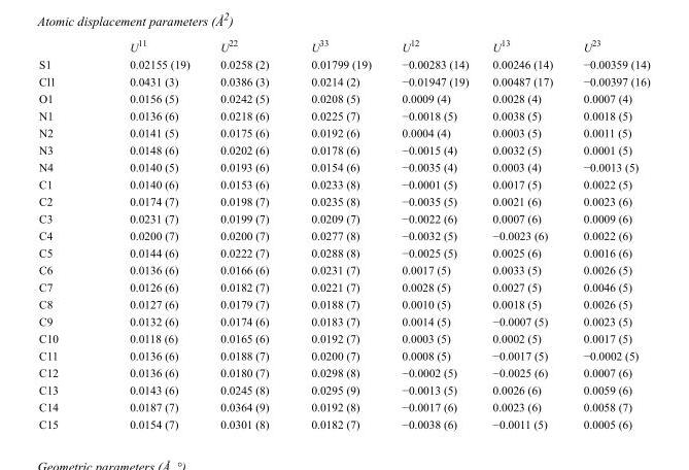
<table><thead><tr><td></td><td>U<sup>11</sup></td><td>U<sup>22</sup></td><td>U<sup>33</sup></td><td>U<sup>12</sup></td><td>U<sup>13</sup></td><td>U<sup>23</sup></td></tr></thead><tbody><tr><td>S1</td><td>0.02155 (19)</td><td>0.0258 (2)</td><td>0.01799 (19)</td><td>−0.00283 (14)</td><td>0.00246 (14)</td><td>−0.00359 (14)</td></tr><tr><td>Cl1</td><td>0.0431 (3)</td><td>0.0386 (3)</td><td>0.0214 (2)</td><td>−0.01947 (19)</td><td>0.00487 (17)</td><td>−0.00397 (16)</td></tr><tr><td>O1</td><td>0.0156 (5)</td><td>0.0242 (5)</td><td>0.0208 (5)</td><td>0.0009 (4)</td><td>0.0028 (4)</td><td>0.0007 (4)</td></tr><tr><td>N1</td><td>0.0136 (6)</td><td>0.0218 (6)</td><td>0.0225 (7)</td><td>−0.0018 (5)</td><td>0.0038 (5)</td><td>0.0018 (5)</td></tr><tr><td>N2</td><td>0.0141 (5)</td><td>0.0175 (6)</td><td>0.0192 (6)</td><td>0.0004 (4)</td><td>0.0003 (5)</td><td>0.0011 (5)</td></tr><tr><td>N3</td><td>0.0148 (6)</td><td>0.0202 (6)</td><td>0.0178 (6)</td><td>−0.0015 (4)</td><td>0.0032 (5)</td><td>0.0001 (5)</td></tr><tr><td>N4</td><td>0.0140 (5)</td><td>0.0193 (6)</td><td>0.0154 (6)</td><td>−0.0035 (4)</td><td>0.0003 (4)</td><td>−0.0013 (5)</td></tr><tr><td>C1</td><td>0.0140 (6)</td><td>0.0153 (6)</td><td>0.0233 (8)</td><td>−0.0001 (5)</td><td>0.0017 (5)</td><td>0.0022 (5)</td></tr><tr><td>C2</td><td>0.0174 (7)</td><td>0.0198 (7)</td><td>0.0235 (8)</td><td>−0.0035 (5)</td><td>0.0021 (6)</td><td>0.0023 (6)</td></tr><tr><td>C3</td><td>0.0231 (7)</td><td>0.0199 (7)</td><td>0.0209 (7)</td><td>−0.0022 (6)</td><td>0.0007 (6)</td><td>0.0009 (6)</td></tr><tr><td>C4</td><td>0.0200 (7)</td><td>0.0200 (7)</td><td>0.0277 (8)</td><td>−0.0032 (5)</td><td>−0.0023 (6)</td><td>0.0022 (6)</td></tr><tr><td>C5</td><td>0.0144 (6)</td><td>0.0222 (7)</td><td>0.0288 (8)</td><td>−0.0025 (5)</td><td>0.0025 (6)</td><td>0.0016 (6)</td></tr><tr><td>C6</td><td>0.0136 (6)</td><td>0.0166 (6)</td><td>0.0231 (7)</td><td>0.0017 (5)</td><td>0.0033 (5)</td><td>0.0026 (5)</td></tr><tr><td>C7</td><td>0.0126 (6)</td><td>0.0182 (7)</td><td>0.0221 (7)</td><td>0.0028 (5)</td><td>0.0027 (5)</td><td>0.0046 (5)</td></tr><tr><td>C8</td><td>0.0127 (6)</td><td>0.0179 (7)</td><td>0.0188 (7)</td><td>0.0010 (5)</td><td>0.0018 (5)</td><td>0.0026 (5)</td></tr><tr><td>C9</td><td>0.0132 (6)</td><td>0.0174 (6)</td><td>0.0183 (7)</td><td>0.0014 (5)</td><td>−0.0007 (5)</td><td>0.0023 (5)</td></tr><tr><td>C10</td><td>0.0118 (6)</td><td>0.0165 (6)</td><td>0.0192 (7)</td><td>0.0003 (5)</td><td>0.0002 (5)</td><td>0.0017 (5)</td></tr><tr><td>C11</td><td>0.0136 (6)</td><td>0.0188 (7)</td><td>0.0200 (7)</td><td>0.0008 (5)</td><td>−0.0017 (5)</td><td>−0.0002 (5)</td></tr><tr><td>C12</td><td>0.0136 (6)</td><td>0.0180 (7)</td><td>0.0298 (8)</td><td>−0.0002 (5)</td><td>−0.0025 (6)</td><td>0.0007 (6)</td></tr><tr><td>C13</td><td>0.0143 (6)</td><td>0.0245 (8)</td><td>0.0295 (9)</td><td>−0.0013 (5)</td><td>0.0026 (6)</td><td>0.0059 (6)</td></tr><tr><td>C14</td><td>0.0187 (7)</td><td>0.0364 (9)</td><td>0.0192 (8)</td><td>−0.0017 (6)</td><td>0.0023 (6)</td><td>0.0058 (7)</td></tr><tr><td>C15</td><td>0.0154 (7)</td><td>0.0301 (8)</td><td>0.0182 (7)</td><td>−0.0038 (6)</td><td>−0.0011 (5)</td><td>0.0005 (6)</td></tr></tbody></table>